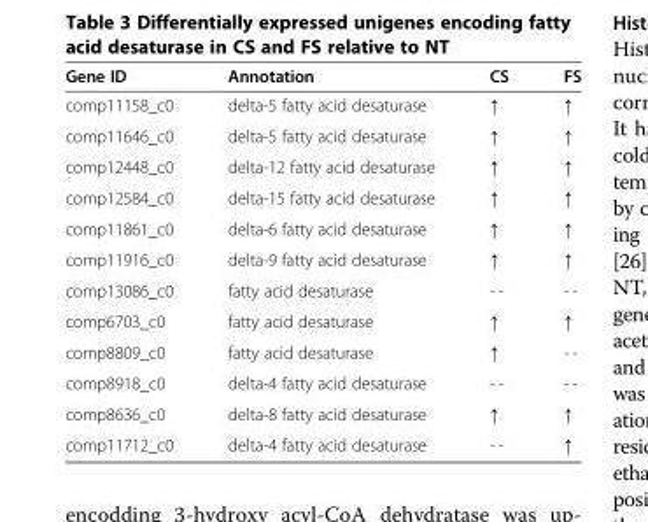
<table><thead><tr><td>Gene ID</td><td>Annotation</td><td>CS</td><td>FS</td></tr></thead><tbody><tr><td>comp11158_c0</td><td>delta-5 fatty acid desaturase</td><td>↑</td><td>↑</td></tr><tr><td>comp11646_c0</td><td>delta-5 fatty acid desaturase</td><td>↑</td><td>↑</td></tr><tr><td>comp12448_c0</td><td>delta-12 fatty acid desaturase</td><td>↑</td><td>↑</td></tr><tr><td>comp12584_c0</td><td>delta-15 fatty acid desaturase</td><td>↑</td><td>↑</td></tr><tr><td>comp11861_c0</td><td>delta-6 fatty acid desaturase</td><td>↑</td><td>↑</td></tr><tr><td>comp11916_c0</td><td>delta-9 fatty acid desaturase</td><td>↑</td><td>↑</td></tr><tr><td>comp13086_c0</td><td>fatty acid desaturase</td><td>- -</td><td>- -</td></tr><tr><td>comp6703_c0</td><td>fatty acid desaturase</td><td>↑</td><td>↑</td></tr><tr><td>comp8809_c0</td><td>fatty acid desaturase</td><td>↑</td><td>- -</td></tr><tr><td>comp8918_c0</td><td>delta-4 fatty acid desaturase</td><td>- -</td><td>- -</td></tr><tr><td>comp8636_c0</td><td>delta-8 fatty acid desaturase</td><td>↑</td><td>↑</td></tr><tr><td>comp11712_c0</td><td>delta-4 fatty acid desaturase</td><td>- -</td><td>↑</td></tr></tbody></table>